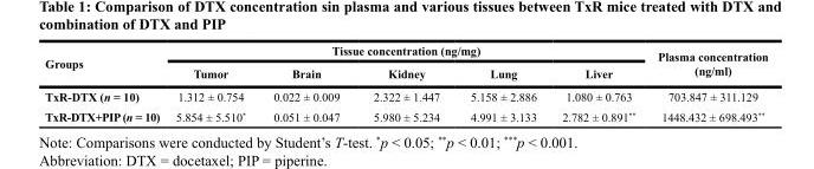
<table><thead><tr><td rowspan="2">Groups</td><td colspan="5">Tissue concentration (ng/mg)</td><td rowspan="2">Plasma concentration (ng/ml)</td></tr><tr><td>Tumor</td><td>Brain</td><td>Kidney</td><td>Lung</td><td>Liver</td></tr></thead><tbody><tr><td>TxR-DTX (n = 10)</td><td>1.312 ± 0.754</td><td>0.022 ± 0.009</td><td>2.322 ± 1.447</td><td>5.158 ± 2.886</td><td>1.080 ± 0.763</td><td>703.847 ± 311.129</td></tr><tr><td>TxR-DTX+PIP (n = 10)</td><td>5.854 ± 5.510*</td><td>0.051 ± 0.047</td><td>5.980 ± 5.234</td><td>4.991 ± 3.133</td><td>2.782 ± 0.891**</td><td>1448.432 ± 698.493**</td></tr></tbody></table>